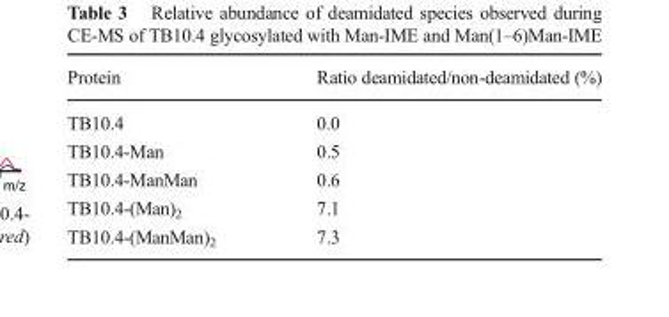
<table><thead><tr><td>Protein</td><td>Ratio deamidated/non-deamidated (%)</td></tr></thead><tbody><tr><td>TB10.4</td><td>0.0</td></tr><tr><td>TB10.4-Man</td><td>0.5</td></tr><tr><td>TB10.4-ManMan</td><td>0.6</td></tr><tr><td>TB10.4-(Man)<sub>2</sub></td><td>7.1</td></tr><tr><td>TB10.4-(ManMan)<sub>2</sub></td><td>7.3</td></tr></tbody></table>